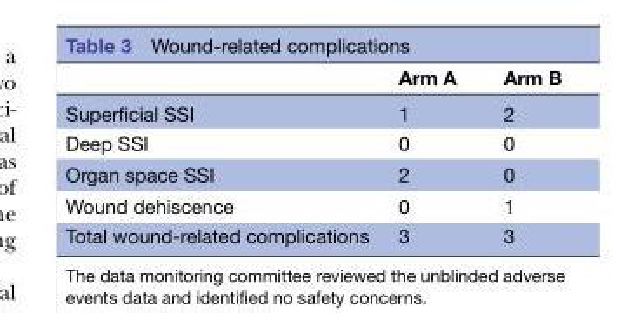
<table><thead><tr><td></td><td>Arm A</td><td>Arm B</td></tr></thead><tbody><tr><td>Superficial SSI</td><td>1</td><td>2</td></tr><tr><td>Deep SSI</td><td>0</td><td>0</td></tr><tr><td>Organ space SSI</td><td>2</td><td>0</td></tr><tr><td>Wound dehiscence</td><td>0</td><td>1</td></tr><tr><td>Total wound-related complications</td><td>3</td><td>3</td></tr></tbody></table>